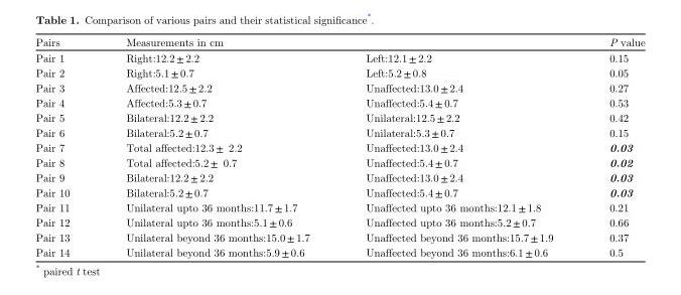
<table><thead><tr><td rowspan="2">Pairs Pair 1</td><td colspan="2">Measurements in cm</td><td rowspan="2">P value 0.15</td></tr><tr><td>Right:12.2 ± 2.2</td><td>Left:12.1 ± 2.2</td></tr></thead><tbody><tr><td>Pair 2</td><td>Right:5.1 ± 0.7</td><td>Left:5.2 ± 0.8</td><td>0.05</td></tr><tr><td>Pair 3</td><td>Affected:12.5 ± 2.2</td><td>Unaffected:13.0 ± 2.4</td><td>0.27</td></tr><tr><td>Pair 4</td><td>Affected:5.3 ± 0.7</td><td>Unaffected:5.4 ± 0.7</td><td>0.53</td></tr><tr><td>Pair 5</td><td>Bilateral:12.2 ± 2.2</td><td>Unilateral:12.5 ± 2.2</td><td>0.42</td></tr><tr><td>Pair 6</td><td>Bilateral:5.2 ± 0.7</td><td>Unilateral:5.3 ± 0.7</td><td>0.15</td></tr><tr><td>Pair 7</td><td>Total affected:12.3 ± 2.2</td><td>Unaffected:13.0 ± 2.4</td><td>0.03</td></tr><tr><td>Pair 8</td><td>Total affected:5.2 ± 0.7</td><td>Unaffected:5.4 ± 0.7</td><td>0.02</td></tr><tr><td>Pair 9</td><td>Bilateral:12.2 ± 2.2</td><td>Unaffected:13.0 ± 2.4</td><td>0.03</td></tr><tr><td>Pair 10</td><td>Bilateral:5.2 ± 0.7</td><td>Unaffected:5.4 ± 0.7</td><td>0.03</td></tr><tr><td>Pair 11</td><td>Unilateral upto 36 months:11.7 ± 1.7</td><td>Unaffected upto 36 months:12.1 ± 1.8</td><td>0.21</td></tr><tr><td>Pair 12</td><td>Unilateral upto 36 months:5.1 ± 0.6</td><td>Unaffected upto 36 months:5.2 ± 0.7</td><td>0.66</td></tr><tr><td>Pair 13</td><td>Unilateral beyond 36 months:15.0 ± 1.7</td><td>Unaffected beyond 36 months:15.7 ± 1.9</td><td>0.37</td></tr><tr><td>Pair 14</td><td>Unilateral beyond 36 months:5.9 ± 0.6</td><td>Unaffected beyond 36 months:6.1 ± 0.6</td><td>0.5</td></tr></tbody></table>